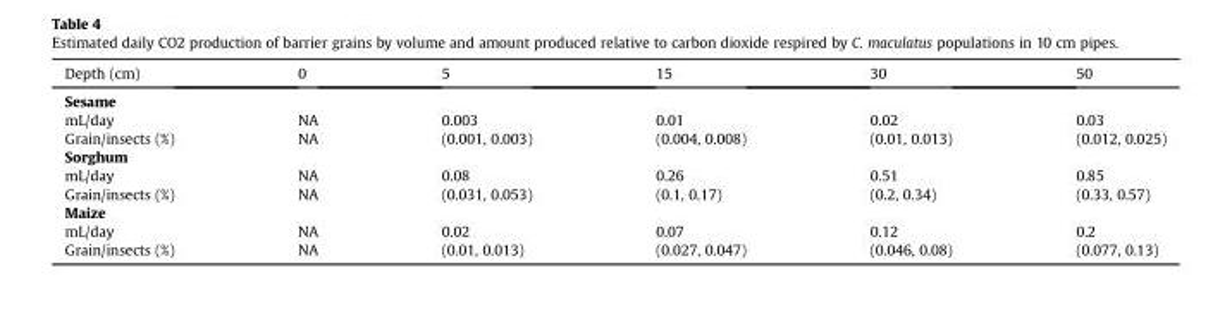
<table><thead><tr><td>Depth (cm)</td><td>0</td><td>5</td><td>15</td><td>30</td><td>50</td></tr></thead><tbody><tr><td colspan="6">Sesame</td></tr><tr><td>mL/day</td><td>NA</td><td>0.003</td><td>0.01</td><td>0.02</td><td>0.03</td></tr><tr><td>Grain/insects (%)</td><td>NA</td><td>(0.001, 0.003)</td><td>(0.004, 0.008)</td><td>(0.01, 0.013)</td><td>(0.012, 0.025)</td></tr><tr><td colspan="6">Sorghum</td></tr><tr><td>mL/day</td><td>NA</td><td>0.08</td><td>0.26</td><td>0.51</td><td>0.85</td></tr><tr><td>Grain/insects (%)</td><td>NA</td><td>(0.031, 0.053)</td><td>(0.1, 0.17)</td><td>(0.2, 0.34)</td><td>(0.33, 0.57)</td></tr><tr><td colspan="6">Maize</td></tr><tr><td>mL/day</td><td>NA</td><td>0.02</td><td>0.07</td><td>0.12</td><td>0.2</td></tr><tr><td>Grain/insects (%)</td><td>NA</td><td>(0.01, 0.013)</td><td>(0.027, 0.047)</td><td>(0.046, 0.08)</td><td>(0.077, 0.13)</td></tr></tbody></table>